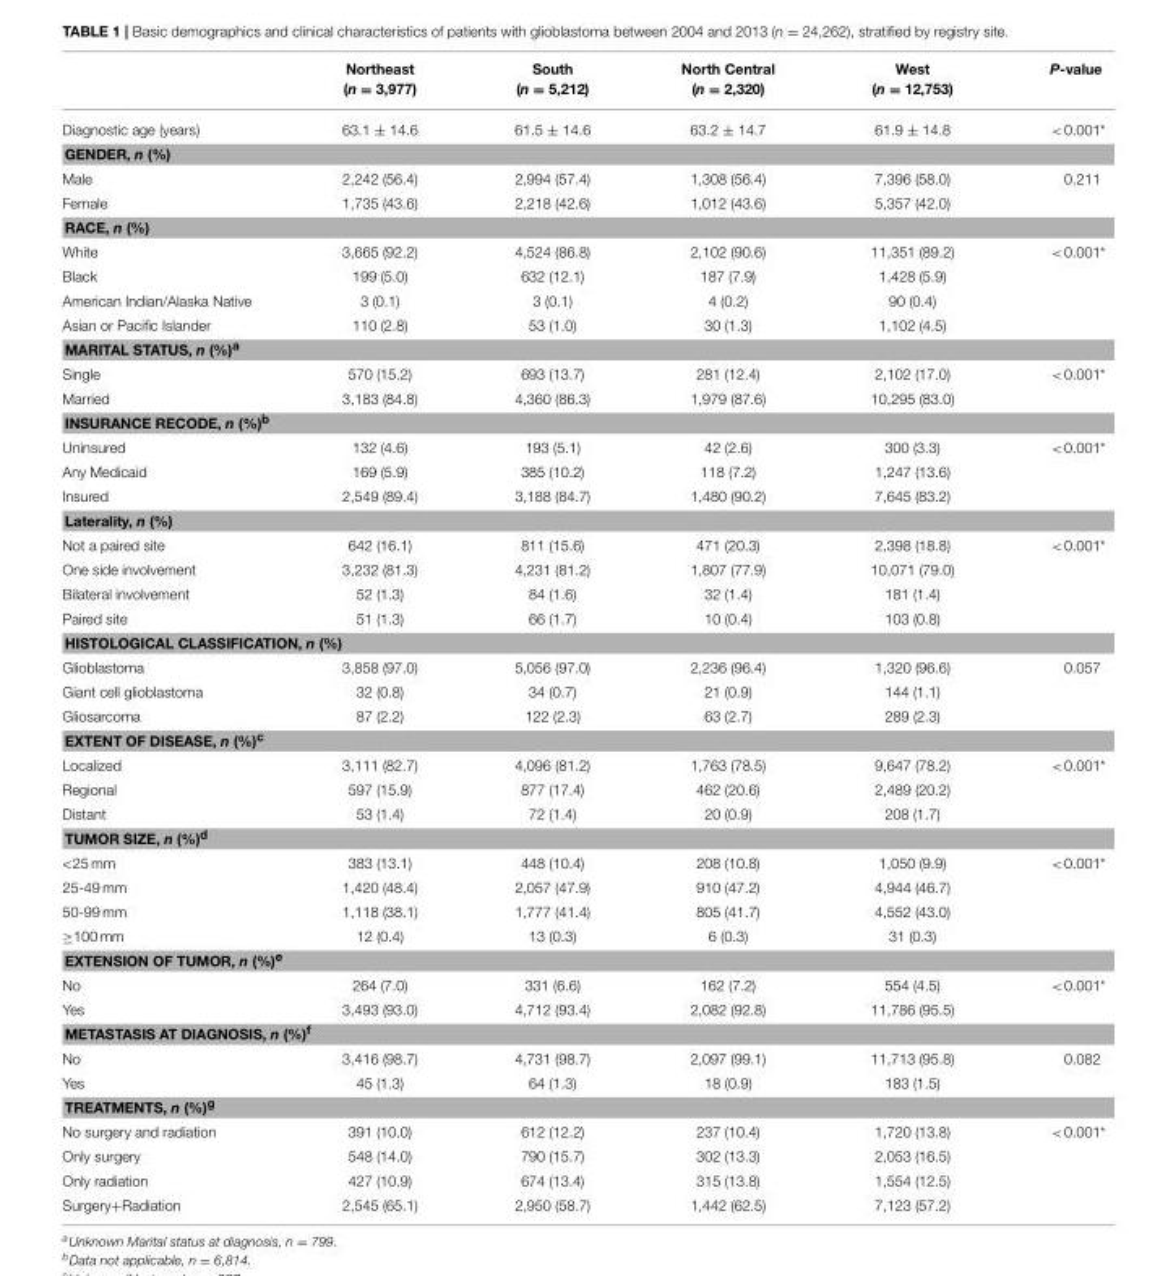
<table><thead><tr><td></td><td>Northeast (n = 3,977)</td><td>South (n = 5,212)</td><td>North Central (n = 2,320)</td><td>West (n = 12,753)</td><td>P-value</td></tr></thead><tbody><tr><td>Diagnostic age (years)</td><td>63.1 ± 14.6</td><td>61.5 ± 14.6</td><td>63.2 ± 14.7</td><td>61.9 ± 14.8</td><td>&lt;0.001*</td></tr><tr><td colspan="6">GENDER, n (%)</td></tr><tr><td>Male</td><td>2,242 (56.4)</td><td>2,994 (57.4)</td><td>1,308 (56.4)</td><td>7,396 (58.0)</td><td>0.211</td></tr><tr><td>Female</td><td>1,735 (43.6)</td><td>2,218 (42.6)</td><td>1,012 (43.6)</td><td>5,357 (42.0)</td><td></td></tr><tr><td colspan="6">RACE, n (%)</td></tr><tr><td>White</td><td>3,665 (92.2)</td><td>4,524 (86.8)</td><td>2,102 (90.6)</td><td>11,351 (89.2)</td><td>&lt;0.001*</td></tr><tr><td>Black</td><td>199 (5.0)</td><td>632 (12.1)</td><td>187 (7.9)</td><td>1,428 (5.9)</td><td></td></tr><tr><td>American Indian/Alaska Native</td><td>3 (0.1)</td><td>3 (0.1)</td><td>4 (0.2)</td><td>90 (0.4)</td><td></td></tr><tr><td>Asian or Pacific Islander</td><td>110 (2.8)</td><td>53 (1.0)</td><td>30 (1.3)</td><td>1,102 (4.5)</td><td></td></tr><tr><td colspan="6">MARITAL STATUS, n (%)<sup>a</sup></td></tr><tr><td>Single</td><td>570 (15.2)</td><td>693 (13.7)</td><td>281 (12.4)</td><td>2,102 (17.0)</td><td>&lt;0.001*</td></tr><tr><td>Married</td><td>3,183 (84.8)</td><td>4,360 (86.3)</td><td>1,979 (87.6)</td><td>10,295 (83.0)</td><td></td></tr><tr><td colspan="6">INSURANCE RECODE, n (%)<sup>b</sup></td></tr><tr><td>Uninsured</td><td>132 (4.6)</td><td>193 (5.1)</td><td>42 (2.6)</td><td>300 (3.3)</td><td>&lt;0.001*</td></tr><tr><td>Any Medicaid</td><td>169 (5.9)</td><td>385 (10.2)</td><td>118 (7.2)</td><td>1,247 (13.6)</td><td></td></tr><tr><td>Insured</td><td>2,549 (89.4)</td><td>3,188 (84.7)</td><td>1,480 (90.2)</td><td>7,645 (83.2)</td><td></td></tr><tr><td colspan="6">Laterality, n (%)</td></tr><tr><td>Not a paired site</td><td>642 (16.1)</td><td>811 (15.6)</td><td>471 (20.3)</td><td>2,398 (18.8)</td><td>&lt;0.001*</td></tr><tr><td>One side involvement</td><td>3,232 (81.3)</td><td>4,231 (81.2)</td><td>1,807 (77.9)</td><td>10,071 (79.0)</td><td></td></tr><tr><td>Bilateral involvement</td><td>52 (1.3)</td><td>84 (1.6)</td><td>32 (1.4)</td><td>181 (1.4)</td><td></td></tr><tr><td>Paired site</td><td>51 (1.3)</td><td>66 (1.7)</td><td>10 (0.4)</td><td>103 (0.8)</td><td></td></tr><tr><td colspan="6">HISTOLOGICAL CLASSIFICATION, n (%)</td></tr><tr><td>Glioblastoma</td><td>3,858 (97.0)</td><td>5,056 (97.0)</td><td>2,236 (96.4)</td><td>1,320 (96.6)</td><td>0.057</td></tr><tr><td>Giant cell glioblastoma</td><td>32 (0.8)</td><td>34 (0.7)</td><td>21 (0.9)</td><td>144 (1.1)</td><td></td></tr><tr><td>Gliosarcoma</td><td>87 (2.2)</td><td>122 (2.3)</td><td>63 (2.7)</td><td>289 (2.3)</td><td></td></tr><tr><td colspan="6">EXTENT OF DISEASE, n (%)<sup>c</sup></td></tr><tr><td>Localized</td><td>3,111 (82.7)</td><td>4,096 (81.2)</td><td>1,763 (78.5)</td><td>9,647 (78.2)</td><td>&lt;0.001*</td></tr><tr><td>Regional</td><td>597 (15.9)</td><td>877 (17.4)</td><td>462 (20.6)</td><td>2,489 (20.2)</td><td></td></tr><tr><td>Distant</td><td>53 (1.4)</td><td>72 (1.4)</td><td>20 (0.9)</td><td>208 (1.7)</td><td></td></tr><tr><td colspan="6">TUMOR SIZE, n (%)<sup>d</sup></td></tr><tr><td>&lt;25 mm</td><td>383 (13.1)</td><td>448 (10.4)</td><td>208 (10.8)</td><td>1,050 (9.9)</td><td>&lt;0.001*</td></tr><tr><td>25-49 mm</td><td>1,420 (48.4)</td><td>2,057 (47.9)</td><td>910 (47.2)</td><td>4,944 (46.7)</td><td></td></tr><tr><td>50-99 mm</td><td>1,118 (38.1)</td><td>1,777 (41.4)</td><td>805 (41.7)</td><td>4,552 (43.0)</td><td></td></tr><tr><td>≥100 mm</td><td>12 (0.4)</td><td>13 (0.3)</td><td>6 (0.3)</td><td>31 (0.3)</td><td></td></tr><tr><td colspan="6">EXTENSION OF TUMOR, n (%)<sup>e</sup></td></tr><tr><td>No</td><td>264 (7.0)</td><td>331 (6.6)</td><td>162 (7.2)</td><td>554 (4.5)</td><td>&lt;0.001*</td></tr><tr><td>Yes</td><td>3,493 (93.0)</td><td>4,712 (93.4)</td><td>2,082 (92.8)</td><td>11,786 (95.5)</td><td></td></tr><tr><td colspan="6">METASTASIS AT DIAGNOSIS, n (%)<sup>f</sup></td></tr><tr><td>No</td><td>3,416 (98.7)</td><td>4,731 (98.7)</td><td>2,097 (99.1)</td><td>11,713 (95.8)</td><td>0.082</td></tr><tr><td>Yes</td><td>45 (1.3)</td><td>64 (1.3)</td><td>18 (0.9)</td><td>183 (1.5)</td><td></td></tr><tr><td colspan="6">TREATMENTS, n (%)<sup>g</sup></td></tr><tr><td>No surgery and radiation</td><td>391 (10.0)</td><td>612 (12.2)</td><td>237 (10.4)</td><td>1,720 (13.8)</td><td>&lt;0.001*</td></tr><tr><td>Only surgery</td><td>548 (14.0)</td><td>790 (15.7)</td><td>302 (13.3)</td><td>2,053 (16.5)</td><td></td></tr><tr><td>Only radiation</td><td>427 (10.9)</td><td>674 (13.4)</td><td>315 (13.8)</td><td>1,554 (12.5)</td><td></td></tr><tr><td>Surgery+Radiation</td><td>2,545 (65.1)</td><td>2,950 (58.7)</td><td>1,442 (62.5)</td><td>7,123 (57.2)</td><td></td></tr></tbody></table>